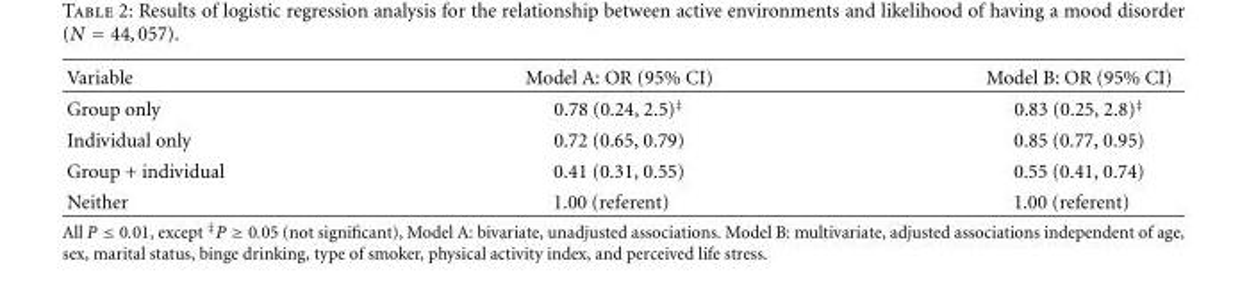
<table><thead><tr><td>Variable</td><td>Model A: OR (95% CI)</td><td>Model B: OR (95% CI)</td></tr></thead><tbody><tr><td>Group only</td><td>0.78 (0.24, 2.5)<sup>‡</sup></td><td>0.83 (0.25, 2.8)<sup>‡</sup></td></tr><tr><td>Individual only</td><td>0.72 (0.65, 0.79)</td><td>0.85 (0.77, 0.95)</td></tr><tr><td>Group + individual</td><td>0.41 (0.31, 0.55)</td><td>0.55 (0.41, 0.74)</td></tr><tr><td>Neither</td><td>1.00 (referent)</td><td>1.00 (referent)</td></tr></tbody></table>